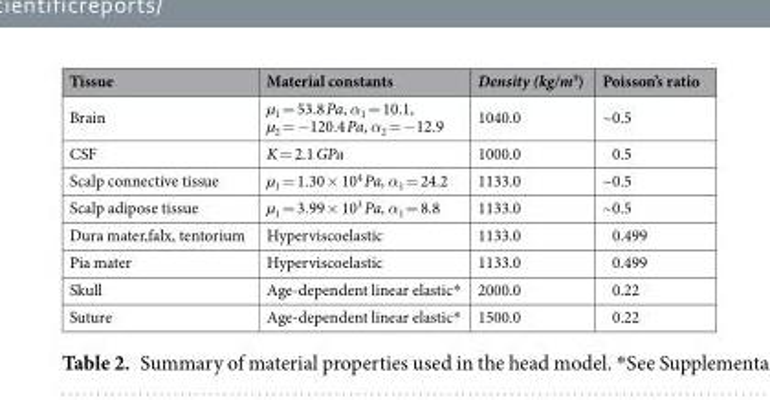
<table><thead><tr><td>Tissue</td><td>Material constants</td><td>Density (kg/m<sup>3</sup>)</td><td>Poisson’s ratio</td></tr></thead><tbody><tr><td>Brain</td><td>µ<sub>1</sub> = 53.8 Pa, α<sub>1</sub> = 10.1, µ<sub>2</sub> = −120.4 Pa, α<sub>2</sub> = −12.9</td><td>1040.0</td><td>~0.5</td></tr><tr><td>CSF</td><td>K = 2.1 GPa</td><td>1000.0</td><td>0.5</td></tr><tr><td>Scalp connective tissue</td><td>µ<sub>1</sub> = 1.30 × 10<sup>4</sup> Pa, α<sub>1</sub> = 24.2</td><td>1133.0</td><td>~0.5</td></tr><tr><td>Scalp adipose tissue</td><td>µ<sub>1</sub> = 3.99 × 10<sup>3</sup> Pa, α<sub>1</sub> = 8.8</td><td>1133.0</td><td>~0.5</td></tr><tr><td>Dura mater,falx, tentorium</td><td>Hyperviscoelastic</td><td>1133.0</td><td>0.499</td></tr><tr><td>Pia mater</td><td>Hyperviscoelastic</td><td>1133.0</td><td>0.499</td></tr><tr><td>Skull</td><td>Age-dependent linear elastic*</td><td>2000.0</td><td>0.22</td></tr><tr><td>Suture</td><td>Age-dependent linear elastic*</td><td>1500.0</td><td>0.22</td></tr></tbody></table>